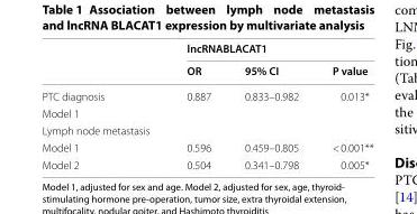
<table><thead><tr><td rowspan="2"></td><td colspan="3">lncRNABLACAT1</td></tr><tr><td>OR</td><td>95% CI</td><td>P value</td></tr></thead><tbody><tr><td>PTC diagnosis</td><td>0.887</td><td>0.833–0.982</td><td>0.013*</td></tr><tr><td colspan="4">Model 1</td></tr><tr><td colspan="4">Lymph node metastasis</td></tr><tr><td>Model 1</td><td>0.596</td><td>0.459–0.805</td><td>&lt; 0.001**</td></tr><tr><td>Model 2</td><td>0.504</td><td>0.341–0.798</td><td>0.005*</td></tr></tbody></table>